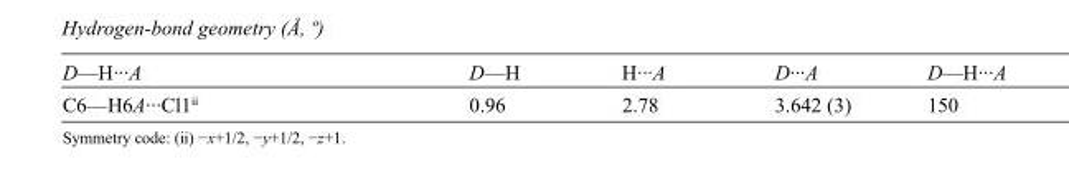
<table><tbody><tr><td>D—H···A</td><td>D—H</td><td>H···A</td><td>D···A</td><td>D—H···A</td></tr><tr><td>C6—H6A···Cl1<sup>ii</sup></td><td>0.96</td><td>2.78</td><td>3.642 (3)</td><td>150</td></tr></tbody></table>